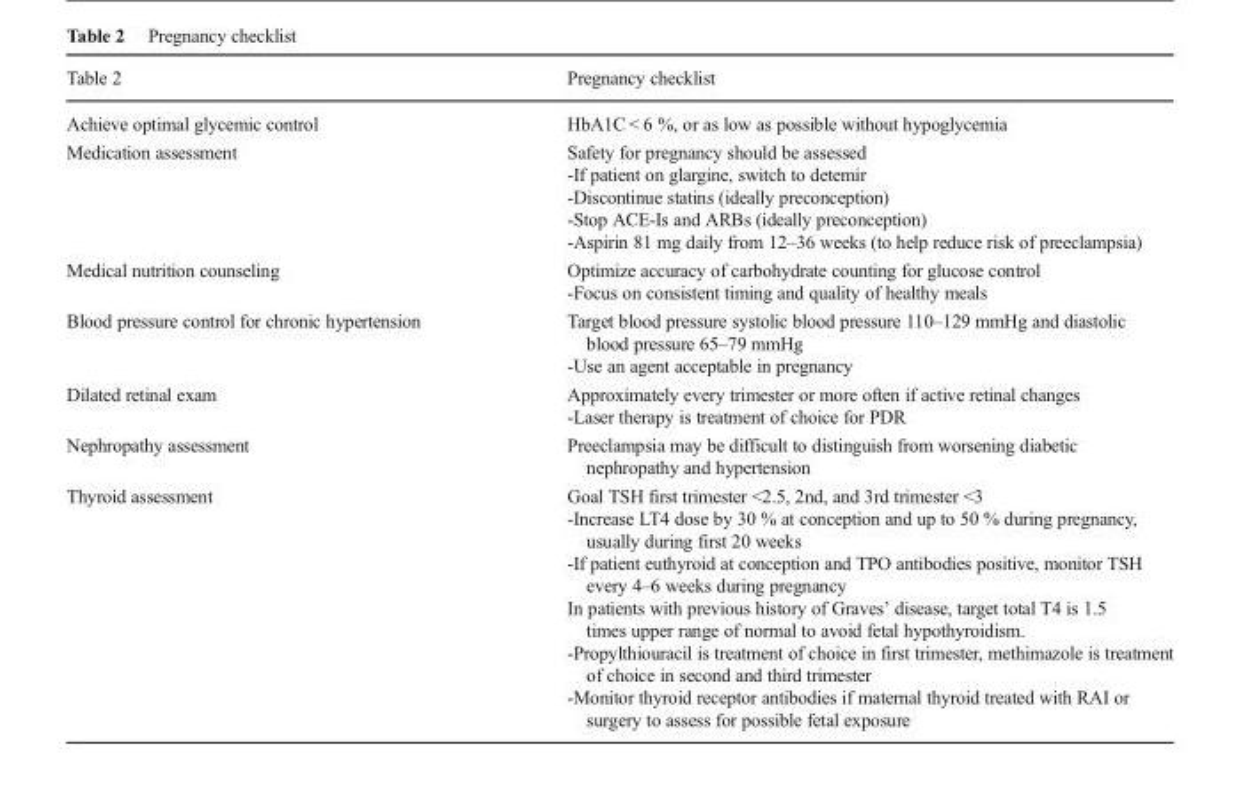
<table><thead><tr><td>Table 2</td><td>Pregnancy checklist</td></tr></thead><tbody><tr><td>Achieve optimal glycemic control</td><td>HbA1C &lt; 6 %, or as low as possible without hypoglycemia</td></tr><tr><td>Medication assessment</td><td>Safety for pregnancy should be assessed -If patient on glargine, switch to detemir -Discontinue statins (ideally preconception) -Stop ACE-Is and ARBs (ideally preconception) -Aspirin 81 mg daily from 12–36 weeks (to help reduce risk of preeclampsia)</td></tr><tr><td>Medical nutrition counseling</td><td>Optimize accuracy of carbohydrate counting for glucose control -Focus on consistent timing and quality of healthy meals</td></tr><tr><td>Blood pressure control for chronic hypertension</td><td>Target blood pressure systolic blood pressure 110–129 mmHg and diastolic blood pressure 65–79 mmHg -Use an agent acceptable in pregnancy</td></tr><tr><td>Dilated retinal exam</td><td>Approximately every trimester or more often if active retinal changes -Laser therapy is treatment of choice for PDR</td></tr><tr><td>Nephropathy assessment</td><td>Preeclampsia may be difficult to distinguish from worsening diabetic nephropathy and hypertension</td></tr><tr><td>Thyroid assessment</td><td>Goal TSH first trimester &lt;2.5, 2nd, and 3rd trimester &lt;3 -Increase LT4 dose by 30 % at conception and up to 50 % during pregnancy, usually during first 20 weeks -If patient euthyroid at conception and TPO antibodies positive, monitor TSH every 4–6 weeks during pregnancy In patients with previous history of Graves’ disease, target total T4 is 1.5 times upper range of normal to avoid fetal hypothyroidism. -Propylthiouracil is treatment of choice in first trimester, methimazole is treatment of choice in second and third trimester -Monitor thyroid receptor antibodies if maternal thyroid treated with RAI or surgery to assess for possible fetal exposure</td></tr></tbody></table>